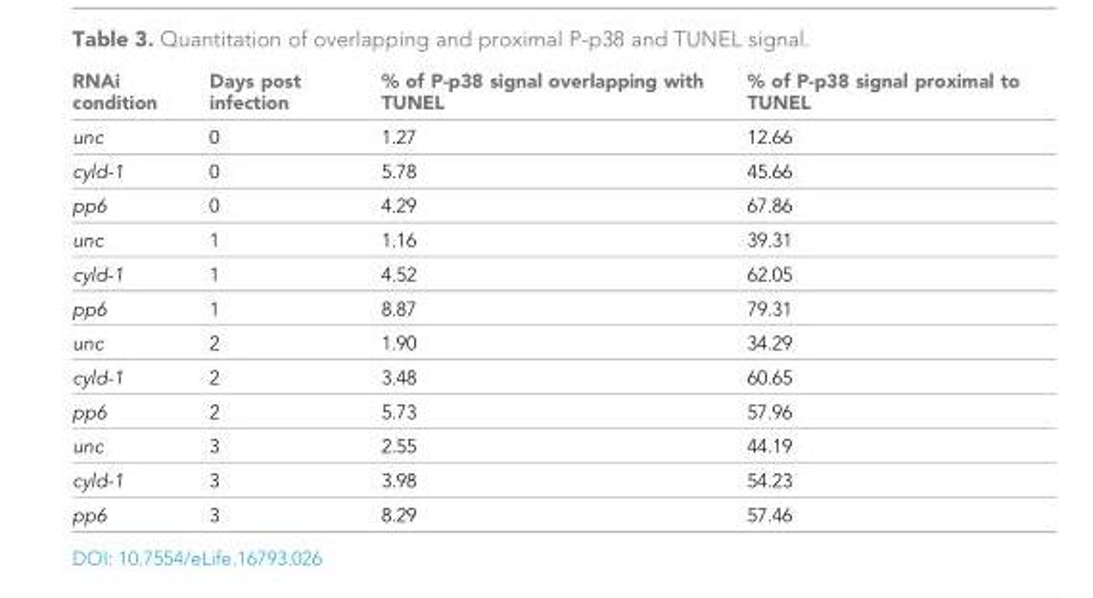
<table><thead><tr><td>RNAi condition</td><td>Days post infection</td><td>% of P-p38 signal overlapping with TUNEL</td><td>% of P-p38 signal proximal to TUNEL</td></tr></thead><tbody><tr><td>unc</td><td>0</td><td>1.27</td><td>12.66</td></tr><tr><td>cyld-1</td><td>0</td><td>5.78</td><td>45.66</td></tr><tr><td>pp6</td><td>0</td><td>4.29</td><td>67.86</td></tr><tr><td>unc</td><td>1</td><td>1.16</td><td>39.31</td></tr><tr><td>cyld-1</td><td>1</td><td>4.52</td><td>62.05</td></tr><tr><td>pp6</td><td>1</td><td>8.87</td><td>79.31</td></tr><tr><td>unc</td><td>2</td><td>1.90</td><td>34.29</td></tr><tr><td>cyld-1</td><td>2</td><td>3.48</td><td>60.65</td></tr><tr><td>pp6</td><td>2</td><td>5.73</td><td>57.96</td></tr><tr><td>unc</td><td>3</td><td>2.55</td><td>44.19</td></tr><tr><td>cyld-1</td><td>3</td><td>3.98</td><td>54.23</td></tr><tr><td>pp6</td><td>3</td><td>8.29</td><td>57.46</td></tr></tbody></table>